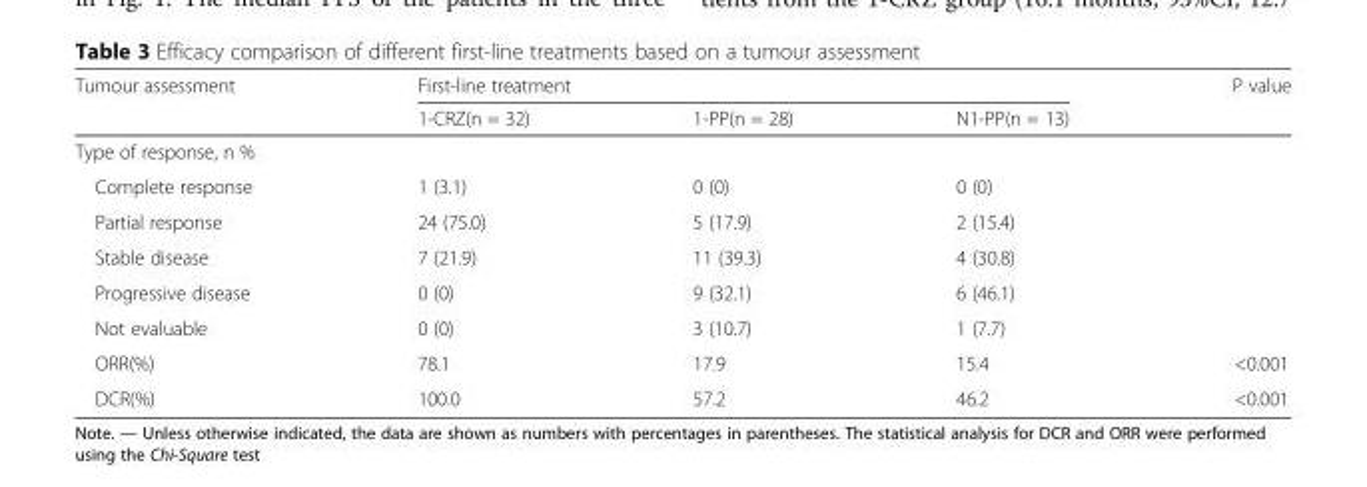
<table><thead><tr><td rowspan="2">Tumour assessment</td><td colspan="3">First-line treatment</td><td rowspan="2">P value</td></tr><tr><td>1-CRZ(n = 32)</td><td>1-PP(n = 28)</td><td>N1-PP(n = 13)</td></tr></thead><tbody><tr><td colspan="5">Type of response, n %</td></tr><tr><td>Complete response</td><td>1 (3.1)</td><td>0 (0)</td><td>0 (0)</td><td></td></tr><tr><td>Partial response</td><td>24 (75.0)</td><td>5 (17.9)</td><td>2 (15.4)</td><td></td></tr><tr><td>Stable disease</td><td>7 (21.9)</td><td>11 (39.3)</td><td>4 (30.8)</td><td></td></tr><tr><td>Progressive disease</td><td>0 (0)</td><td>9 (32.1)</td><td>6 (46.1)</td><td></td></tr><tr><td>Not evaluable</td><td>0 (0)</td><td>3 (10.7)</td><td>1 (7.7)</td><td></td></tr><tr><td>ORR(%)</td><td>78.1</td><td>17.9</td><td>15.4</td><td>&lt;0.001</td></tr><tr><td>DCR(%)</td><td>100.0</td><td>57.2</td><td>46.2</td><td>&lt;0.001</td></tr></tbody></table>